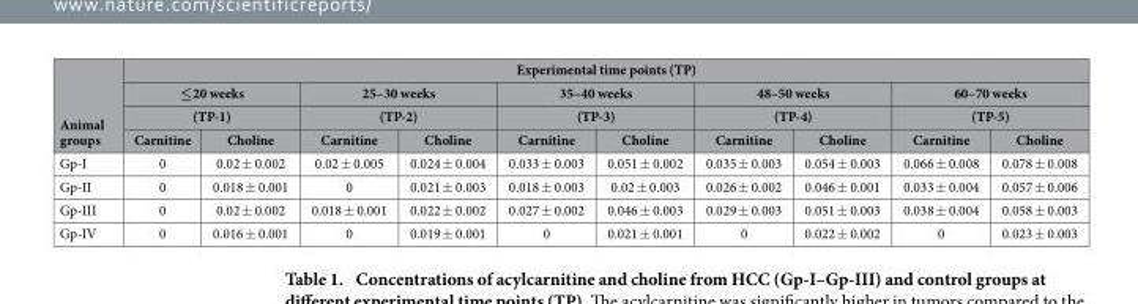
<table><thead><tr><td rowspan="4">Animal groups</td><td colspan="10">Experimental time points (TP)</td></tr><tr><td rowspan="2" colspan="2">≤20 weeks (TP-1)</td><td rowspan="2" colspan="2">25–30 weeks (TP-2)</td><td rowspan="2" colspan="2">35–40 weeks (TP-3)</td><td rowspan="2" colspan="2">48–50 weeks (TP-4)</td><td rowspan="2" colspan="2">60–70 weeks (TP-5)</td></tr><tr></tr><tr><td>Carnitine</td><td>Choline</td><td>Carnitine</td><td>Choline</td><td>Carnitine</td><td>Choline</td><td>Carnitine</td><td>Choline</td><td>Carnitine</td><td>Choline</td></tr></thead><tbody><tr><td>Gp-I</td><td>0</td><td>0.02 ± 0.002</td><td>0.02 ± 0.005</td><td>0.024 ± 0.004</td><td>0.033 ± 0.003</td><td>0.051 ± 0.002</td><td>0.035 ± 0.003</td><td>0.054 ± 0.003</td><td>0.066 ± 0.008</td><td>0.078 ± 0.008</td></tr><tr><td>Gp-II</td><td>0</td><td>0.018 ± 0.001</td><td>0</td><td>0.021 ± 0.003</td><td>0.018 ± 0.003</td><td>0.02 ± 0.003</td><td>0.026 ± 0.002</td><td>0.046 ± 0.001</td><td>0.033 ± 0.004</td><td>0.057 ± 0.006</td></tr><tr><td>Gp-III</td><td>0</td><td>0.02 ± 0.002</td><td>0.018 ± 0.001</td><td>0.022 ± 0.002</td><td>0.027 ± 0.002</td><td>0.046 ± 0.003</td><td>0.029 ± 0.003</td><td>0.051 ± 0.003</td><td>0.038 ± 0.004</td><td>0.058 ± 0.003</td></tr><tr><td>Gp-IV</td><td>0</td><td>0.016 ± 0.001</td><td>0</td><td>0.019 ± 0.001</td><td>0</td><td>0.021 ± 0.001</td><td>0</td><td>0.022 ± 0.002</td><td>0</td><td>0.023 ± 0.003</td></tr></tbody></table>